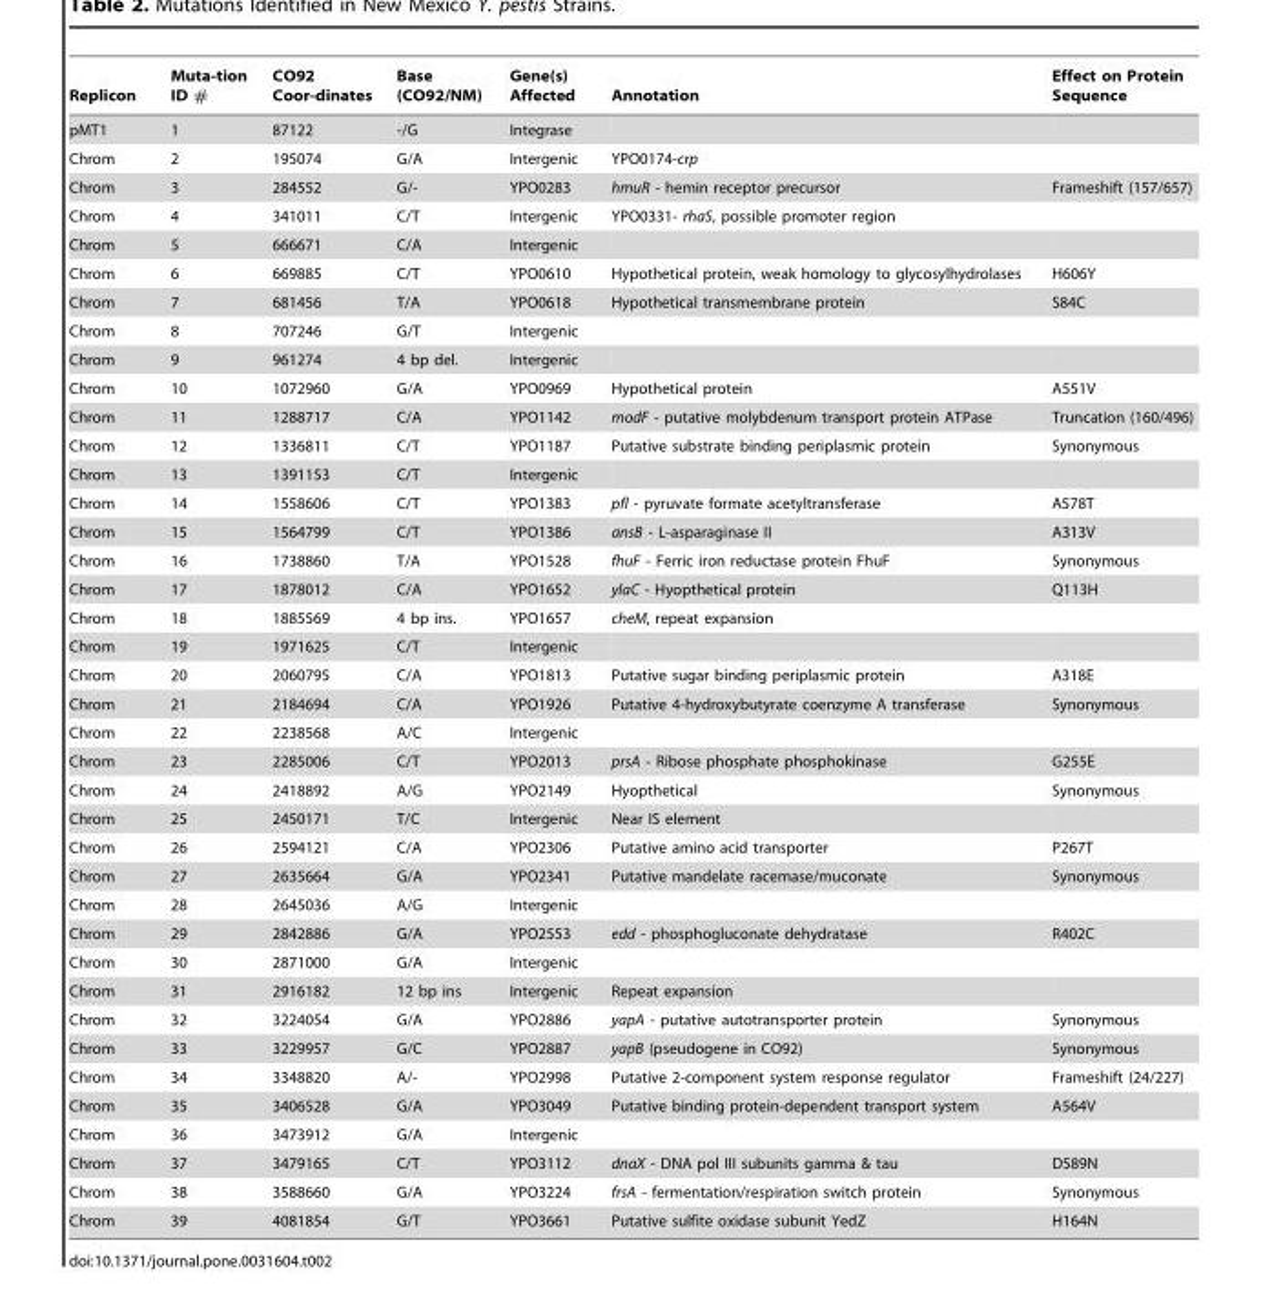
<table><thead><tr><td>Replicon</td><td>Muta-tion ID #</td><td>CO92 Coor-dinates</td><td>Base (CO92/NM)</td><td>Gene(s) Affected</td><td>Annotation</td><td>Effect on Protein Sequence</td></tr></thead><tbody><tr><td>pMT1</td><td>1</td><td>87122</td><td>-/G</td><td>Integrase</td><td></td><td></td></tr><tr><td>Chrom</td><td>2</td><td>195074</td><td>G/A</td><td>Intergenic</td><td>YPO0174-crp</td><td></td></tr><tr><td>Chrom</td><td>3</td><td>284552</td><td>G/-</td><td>YPO0283</td><td>hmuR - hemin receptor precursor</td><td>Frameshift (157/657)</td></tr><tr><td>Chrom</td><td>4</td><td>341011</td><td>C/T</td><td>Intergenic</td><td>YPO0331- rhaS, possible promoter region</td><td></td></tr><tr><td>Chrom</td><td>5</td><td>666671</td><td>C/A</td><td>Intergenic</td><td></td><td></td></tr><tr><td>Chrom</td><td>6</td><td>669885</td><td>C/T</td><td>YPO0610</td><td>Hypothetical protein, weak homology to glycosylhydrolases</td><td>H606Y</td></tr><tr><td>Chrom</td><td>7</td><td>681456</td><td>T/A</td><td>YPO0618</td><td>Hypothetical transmembrane protein</td><td>S84C</td></tr><tr><td>Chrom</td><td>8</td><td>707246</td><td>G/T</td><td>Intergenic</td><td></td><td></td></tr><tr><td>Chrom</td><td>9</td><td>961274</td><td>4 bp del.</td><td>Intergenic</td><td></td><td></td></tr><tr><td>Chrom</td><td>10</td><td>1072960</td><td>G/A</td><td>YPO0969</td><td>Hypothetical protein</td><td>A551V</td></tr><tr><td>Chrom</td><td>11</td><td>1288717</td><td>C/A</td><td>YPO1142</td><td>modF - putative molybdenum transport protein ATPase</td><td>Truncation (160/496)</td></tr><tr><td>Chrom</td><td>12</td><td>1336811</td><td>C/T</td><td>YPO1187</td><td>Putative substrate binding periplasmic protein</td><td>Synonymous</td></tr><tr><td>Chrom</td><td>13</td><td>1391153</td><td>C/T</td><td>Intergenic</td><td></td><td></td></tr><tr><td>Chrom</td><td>14</td><td>1558606</td><td>C/T</td><td>YPO1383</td><td>pfl - pyruvate formate acetyltransferase</td><td>A578T</td></tr><tr><td>Chrom</td><td>15</td><td>1564799</td><td>C/T</td><td>YPO1386</td><td>ansB - L-asparaginase II</td><td>A313V</td></tr><tr><td>Chrom</td><td>16</td><td>1738860</td><td>T/A</td><td>YPO1528</td><td>fhuF - Ferric iron reductase protein FhuF</td><td>Synonymous</td></tr><tr><td>Chrom</td><td>17</td><td>1878012</td><td>C/A</td><td>YPO1652</td><td>ylaC - Hyopthetical protein</td><td>Q113H</td></tr><tr><td>Chrom</td><td>18</td><td>1885569</td><td>4 bp ins.</td><td>YPO1657</td><td>cheM, repeat expansion</td><td></td></tr><tr><td>Chrom</td><td>19</td><td>1971625</td><td>C/T</td><td>Intergenic</td><td></td><td></td></tr><tr><td>Chrom</td><td>20</td><td>2060795</td><td>C/A</td><td>YPO1813</td><td>Putative sugar binding periplasmic protein</td><td>A318E</td></tr><tr><td>Chrom</td><td>21</td><td>2184694</td><td>C/A</td><td>YPO1926</td><td>Putative 4-hydroxybutyrate coenzyme A transferase</td><td>Synonymous</td></tr><tr><td>Chrom</td><td>22</td><td>2238568</td><td>A/C</td><td>Intergenic</td><td></td><td></td></tr><tr><td>Chrom</td><td>23</td><td>2285006</td><td>C/T</td><td>YPO2013</td><td>prsA - Ribose phosphate phosphokinase</td><td>G255E</td></tr><tr><td>Chrom</td><td>24</td><td>2418892</td><td>A/G</td><td>YPO2149</td><td>Hyopthetical</td><td>Synonymous</td></tr><tr><td>Chrom</td><td>25</td><td>2450171</td><td>T/C</td><td>Intergenic</td><td>Near IS element</td><td></td></tr><tr><td>Chrom</td><td>26</td><td>2594121</td><td>C/A</td><td>YPO2306</td><td>Putative amino acid transporter</td><td>P267T</td></tr><tr><td>Chrom</td><td>27</td><td>2635664</td><td>G/A</td><td>YPO2341</td><td>Putative mandelate racemase/muconate</td><td>Synonymous</td></tr><tr><td>Chrom</td><td>28</td><td>2645036</td><td>A/G</td><td>Intergenic</td><td></td><td></td></tr><tr><td>Chrom</td><td>29</td><td>2842886</td><td>G/A</td><td>YPO2553</td><td>edd - phosphogluconate dehydratase</td><td>R402C</td></tr><tr><td>Chrom</td><td>30</td><td>2871000</td><td>G/A</td><td>Intergenic</td><td></td><td></td></tr><tr><td>Chrom</td><td>31</td><td>2916182</td><td>12 bp ins</td><td>Intergenic</td><td>Repeat expansion</td><td></td></tr><tr><td>Chrom</td><td>32</td><td>3224054</td><td>G/A</td><td>YPO2886</td><td>yapA - putative autotransporter protein</td><td>Synonymous</td></tr><tr><td>Chrom</td><td>33</td><td>3229957</td><td>G/C</td><td>YPO2887</td><td>yapB (pseudogene in CO92)</td><td>Synonymous</td></tr><tr><td>Chrom</td><td>34</td><td>3348820</td><td>A/-</td><td>YPO2998</td><td>Putative 2-component system response regulator</td><td>Frameshift (24/227)</td></tr><tr><td>Chrom</td><td>35</td><td>3406528</td><td>G/A</td><td>YPO3049</td><td>Putative binding protein-dependent transport system</td><td>A564V</td></tr><tr><td>Chrom</td><td>36</td><td>3473912</td><td>G/A</td><td>Intergenic</td><td></td><td></td></tr><tr><td>Chrom</td><td>37</td><td>3479165</td><td>C/T</td><td>YPO3112</td><td>dnaX - DNA pol III subunits gamma &amp; tau</td><td>D589N</td></tr><tr><td>Chrom</td><td>38</td><td>3588660</td><td>G/A</td><td>YPO3224</td><td>frsA - fermentation/respiration switch protein</td><td>Synonymous</td></tr><tr><td>Chrom</td><td>39</td><td>4081854</td><td>G/T</td><td>YPO3661</td><td>Putative sulfite oxidase subunit YedZ</td><td>H164N</td></tr></tbody></table>